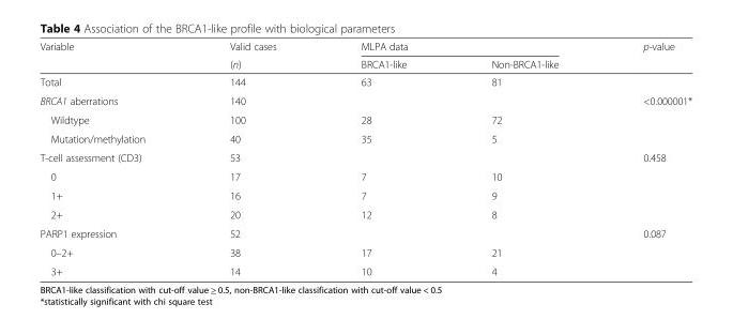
<table><thead><tr><td rowspan="2">Variable</td><td rowspan="2">Valid cases (n)</td><td colspan="2">MLPA data</td><td rowspan="2">p-value</td></tr><tr><td>BRCA1-like</td><td>Non-BRCA1-like</td></tr></thead><tbody><tr><td>Total</td><td>144</td><td>63</td><td>81</td><td></td></tr><tr><td>BRCA1 aberrations</td><td>140</td><td></td><td></td><td>&lt;0.000001*</td></tr><tr><td>Wildtype</td><td>100</td><td>28</td><td>72</td><td></td></tr><tr><td>Mutation/methylation</td><td>40</td><td>35</td><td>5</td><td></td></tr><tr><td>T-cell assessment (CD3)</td><td>53</td><td></td><td></td><td>0.458</td></tr><tr><td>0</td><td>17</td><td>7</td><td>10</td><td></td></tr><tr><td>1+</td><td>16</td><td>7</td><td>9</td><td></td></tr><tr><td>2+</td><td>20</td><td>12</td><td>8</td><td></td></tr><tr><td>PARP1 expression</td><td>52</td><td></td><td></td><td>0.087</td></tr><tr><td>0–2+</td><td>38</td><td>17</td><td>21</td><td></td></tr><tr><td>3+</td><td>14</td><td>10</td><td>4</td><td></td></tr></tbody></table>